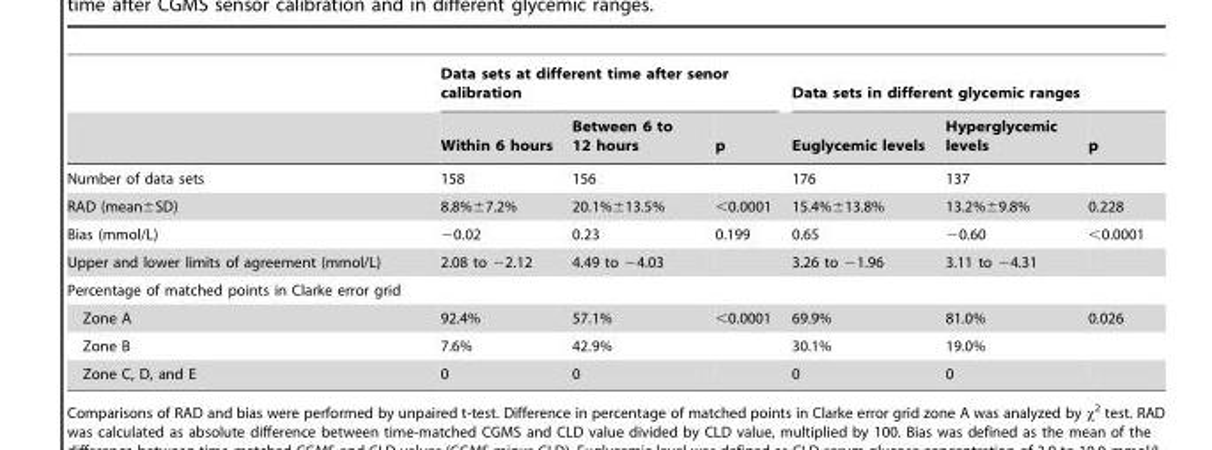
<table><thead><tr><td rowspan="2"></td><td colspan="3">Data sets at different time after senor calibration</td><td colspan="3">Data sets in different glycemic ranges</td></tr><tr><td>Within 6 hours</td><td>Between 6 to 12 hours</td><td>p</td><td>Euglycemic levels</td><td>Hyperglycemic levels</td><td>p</td></tr></thead><tbody><tr><td>Number of data sets</td><td>158</td><td>156</td><td></td><td>176</td><td>137</td><td></td></tr><tr><td>RAD (mean±SD)</td><td>8.8%±7.2%</td><td>20.1%±13.5%</td><td>&lt;0.0001</td><td>15.4%±13.8%</td><td>13.2%±9.8%</td><td>0.228</td></tr><tr><td>Bias (mmol/L)</td><td>−0.02</td><td>0.23</td><td>0.199</td><td>0.65</td><td>−0.60</td><td>&lt;0.0001</td></tr><tr><td>Upper and lower limits of agreement (mmol/L)</td><td>2.08 to −2.12</td><td>4.49 to −4.03</td><td></td><td>3.26 to −1.96</td><td>3.11 to −4.31</td><td></td></tr><tr><td colspan="7">Percentage of matched points in Clarke error grid</td></tr><tr><td>Zone A</td><td>92.4%</td><td>57.1%</td><td>&lt;0.0001</td><td>69.9%</td><td>81.0%</td><td>0.026</td></tr><tr><td>Zone B</td><td>7.6%</td><td>42.9%</td><td></td><td>30.1%</td><td>19.0%</td><td></td></tr><tr><td>Zone C, D, and E</td><td>0</td><td>0</td><td></td><td>0</td><td>0</td><td></td></tr></tbody></table>